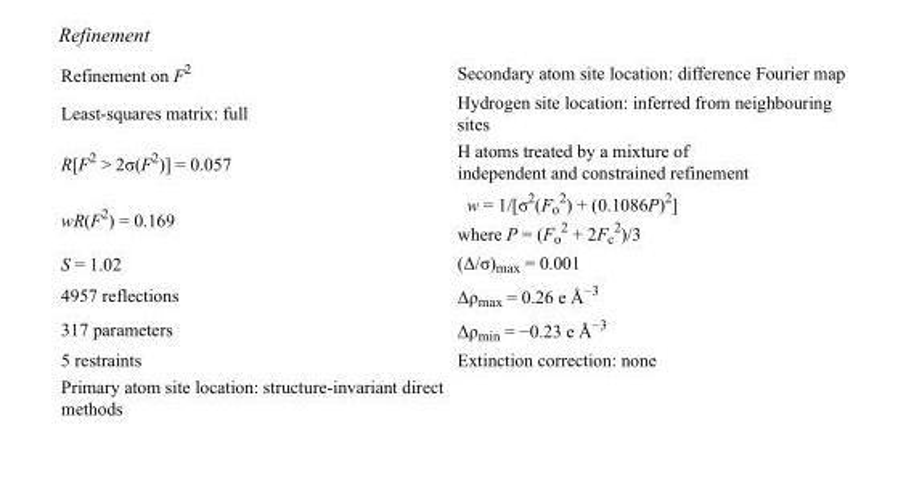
<table><tbody><tr><td>Refinement on F<sup>2</sup></td><td>Secondary atom site location: difference Fourier map</td></tr><tr><td>Least-squares matrix: full</td><td>Hydrogen site location: inferred from neighbouring sites</td></tr><tr><td>R[F<sup>2</sup> &gt; 2σ(F<sup>2</sup>)] = 0.057</td><td>H atoms treated by a mixture of independent and constrained refinement</td></tr><tr><td>wR(F<sup>2</sup>) = 0.169</td><td>w = 1/[σ<sup>2</sup>(F<sub>o</sub> <sup>2</sup>) + (0.1086P)<sup>2</sup>] where P = (F<sub>o</sub> <sup>2</sup> + 2F<sub>c</sub> <sup>2</sup>)/3</td></tr><tr><td>S = 1.02</td><td>(Δ/σ)<sub>max</sub> = 0.001</td></tr><tr><td>4957 reflections</td><td>Δρ<sub>max</sub> = 0.26 e Å<sup>−3</sup></td></tr><tr><td>317 parameters</td><td>Δρ<sub>min</sub> = −0.23 e Å<sup>−3</sup></td></tr><tr><td>5 restraints</td><td>Extinction correction: none</td></tr><tr><td>Primary atom site location: structure-invariant direct methods</td><td></td></tr></tbody></table>